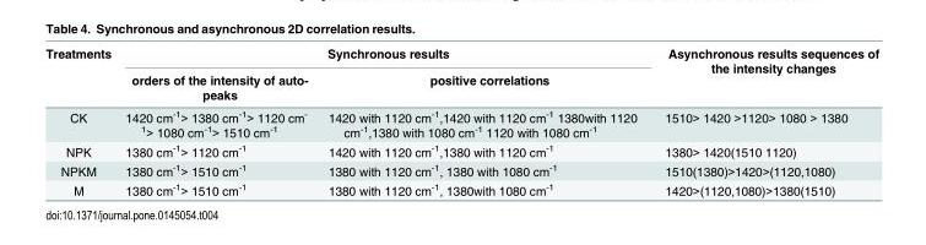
<table><thead><tr><td rowspan="2">Treatments</td><td colspan="2">Synchronous results</td><td rowspan="2">Asynchronous results sequences of the intensity changes</td></tr><tr><td>orders of the intensity of auto- peaks</td><td>positive correlations</td></tr></thead><tbody><tr><td>CK</td><td>1420 cm<sup>-1</sup>&gt; 1380 cm<sup>-1</sup>&gt; 1120 cm<sup>- 1</sup>&gt; 1080 cm<sup>-1</sup>&gt; 1510 cm<sup>-1</sup></td><td>1420 with 1120 cm<sup>-1</sup>,1420 with 1120 cm<sup>-1</sup> 1380with 1120 cm<sup>-1</sup>,1380 with 1080 cm<sup>-1</sup> 1120 with 1080 cm<sup>-1</sup></td><td>1510&gt; 1420 &gt;1120&gt; 1080 &gt; 1380</td></tr><tr><td>NPK</td><td>1380 cm<sup>-1</sup>&gt; 1120 cm<sup>-1</sup></td><td>1420 with 1120 cm<sup>-1</sup>,1380 with 1120 cm<sup>-1</sup></td><td>1380&gt; 1420(1510 1120)</td></tr><tr><td>NPKM</td><td>1380 cm<sup>-1</sup>&gt; 1510 cm<sup>-1</sup></td><td>1380 with 1120 cm<sup>-1</sup>, 1380 with 1080 cm<sup>-1</sup></td><td>1510(1380)&gt;1420&gt;(1120,1080)</td></tr><tr><td>M</td><td>1380 cm<sup>-1</sup>&gt; 1510 cm<sup>-1</sup></td><td>1380 with 1120 cm<sup>-1</sup>, 1380with 1080 cm<sup>-1</sup></td><td>1420&gt;(1120,1080)&gt;1380(1510)</td></tr></tbody></table>